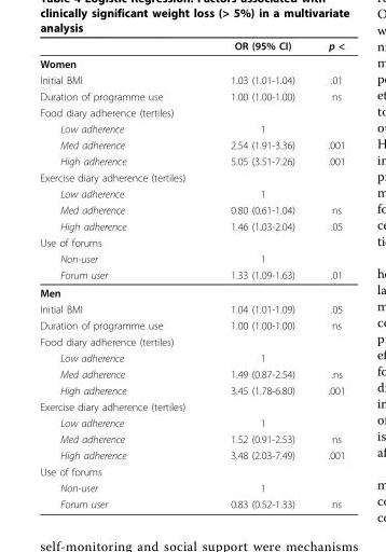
<table><thead><tr><td></td><td>OR (95% CI)</td><td>p &lt;</td></tr></thead><tbody><tr><td colspan="3">Women</td></tr><tr><td>Initial BMI</td><td>1.03 (1.01-1.04)</td><td>.01</td></tr><tr><td>Duration of programme use</td><td>1.00 (1.00-1.00)</td><td>ns</td></tr><tr><td colspan="3">Food diary adherence (tertiles)</td></tr><tr><td>Low adherence</td><td>1</td><td></td></tr><tr><td>Med adherence</td><td>2.54 (1.91-3.36)</td><td>.001</td></tr><tr><td>High adherence</td><td>5.05 (3.51-7.26)</td><td>.001</td></tr><tr><td colspan="3">Exercise diary adherence (tertiles)</td></tr><tr><td>Low adherence</td><td>1</td><td></td></tr><tr><td>Med adherence</td><td>0.80 (0.61-1.04)</td><td>ns</td></tr><tr><td>High adherence</td><td>1.46 (1.03-2.04)</td><td>.05</td></tr><tr><td colspan="3">Use of forums</td></tr><tr><td>Non-user</td><td>1</td><td></td></tr><tr><td>Forum user</td><td>1.33 (1.09-1.63)</td><td>.01</td></tr><tr><td colspan="3">Men</td></tr><tr><td>Initial BMI</td><td>1.04 (1.01-1.09)</td><td>.05</td></tr><tr><td>Duration of programme use</td><td>1.00 (1.00-1.00)</td><td>ns</td></tr><tr><td colspan="3">Food diary adherence (tertiles)</td></tr><tr><td>Low adherence</td><td>1</td><td></td></tr><tr><td>Med adherence</td><td>1.49 (0.87-2.54)</td><td>.ns</td></tr><tr><td>High adherence</td><td>3.45 (1.78-6.80)</td><td>.001</td></tr><tr><td colspan="3">Exercise diary adherence (tertiles)</td></tr><tr><td>Low adherence</td><td>1</td><td></td></tr><tr><td>Med adherence</td><td>1.52 (0.91-2.53)</td><td>ns</td></tr><tr><td>High adherence</td><td>3.48 (2.03-7.49)</td><td>.001</td></tr><tr><td colspan="3">Use of forums</td></tr><tr><td>Non-user</td><td>1</td><td></td></tr><tr><td>Forum user</td><td>0.83 (0.52-1.33)</td><td>ns</td></tr></tbody></table>